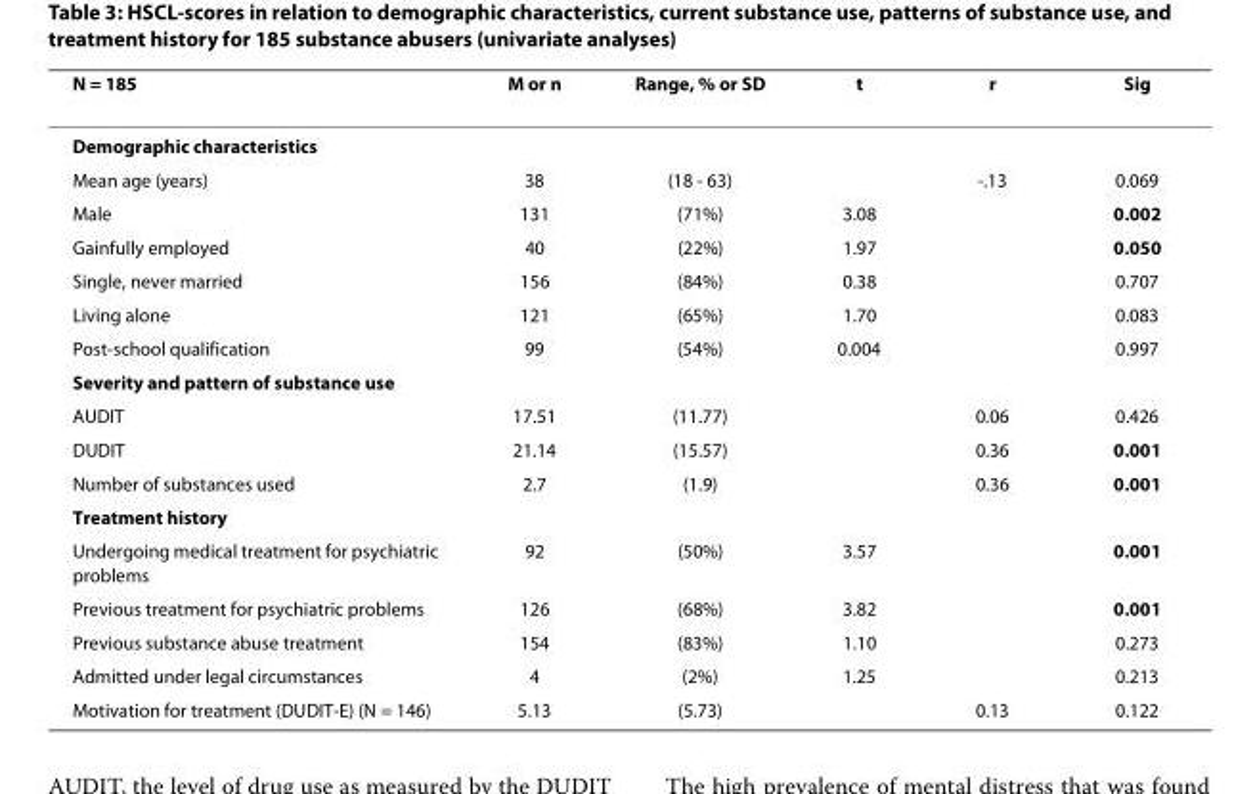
<table><thead><tr><td>N = 185</td><td>M or n</td><td>Range, % or SD</td><td>t</td><td>r</td><td>Sig</td></tr></thead><tbody><tr><td colspan="6">Demographic characteristics</td></tr><tr><td>Mean age (years)</td><td>38</td><td>(18 - 63)</td><td></td><td>-.13</td><td>0.069</td></tr><tr><td>Male</td><td>131</td><td>(71%)</td><td>3.08</td><td></td><td>0.002</td></tr><tr><td>Gainfully employed</td><td>40</td><td>(22%)</td><td>1.97</td><td></td><td>0.050</td></tr><tr><td>Single, never married</td><td>156</td><td>(84%)</td><td>0.38</td><td></td><td>0.707</td></tr><tr><td>Living alone</td><td>121</td><td>(65%)</td><td>1.70</td><td></td><td>0.083</td></tr><tr><td>Post-school qualification</td><td>99</td><td>(54%)</td><td>0.004</td><td></td><td>0.997</td></tr><tr><td colspan="6">Severity and pattern of substance use</td></tr><tr><td>AUDIT</td><td>17.51</td><td>(11.77)</td><td></td><td>0.06</td><td>0.426</td></tr><tr><td>DUDIT</td><td>21.14</td><td>(15.57)</td><td></td><td>0.36</td><td>0.001</td></tr><tr><td>Number of substances used</td><td>2.7</td><td>(1.9)</td><td></td><td>0.36</td><td>0.001</td></tr><tr><td colspan="6">Treatment history</td></tr><tr><td>Undergoing medical treatment for psychiatric problems</td><td>92</td><td>(50%)</td><td>3.57</td><td></td><td>0.001</td></tr><tr><td>Previous treatment for psychiatric problems</td><td>126</td><td>(68%)</td><td>3.82</td><td></td><td>0.001</td></tr><tr><td>Previous substance abuse treatment</td><td>154</td><td>(83%)</td><td>1.10</td><td></td><td>0.273</td></tr><tr><td>Admitted under legal circumstances</td><td>4</td><td>(2%)</td><td>1.25</td><td></td><td>0.213</td></tr><tr><td>Motivation for treatment (DUDIT-E) (N = 146)</td><td>5.13</td><td>(5.73)</td><td></td><td>0.13</td><td>0.122</td></tr></tbody></table>